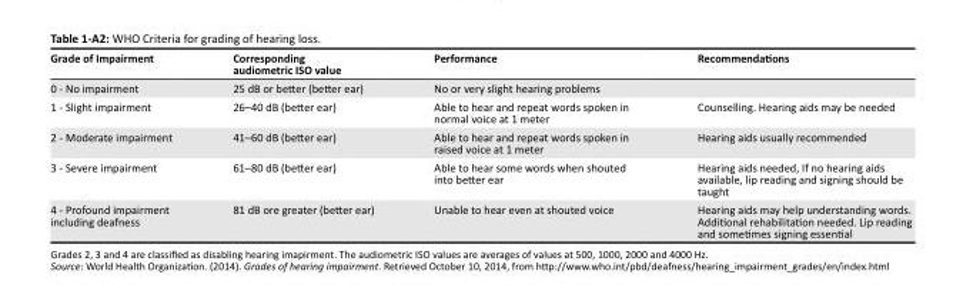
<table><thead><tr><td>Grade of Impairment</td><td>Corresponding audiometric ISO value</td><td>Performance</td><td>Recommendations</td></tr></thead><tbody><tr><td>0 - No impairment</td><td>25 dB or better (better ear)</td><td>No or very slight hearing problems</td><td></td></tr><tr><td>1 - Slight impairment</td><td>26–40 dB (better ear)</td><td>Able to hear and repeat words spoken in normal voice at 1 meter</td><td>Counselling. Hearing aids may be needed</td></tr><tr><td>2 - Moderate impairment</td><td>41–60 dB (better ear)</td><td>Able to hear and repeat words spoken in raised voice at 1 meter</td><td>Hearing aids usually recommended</td></tr><tr><td>3 - Severe impairment</td><td>61–80 dB (better ear)</td><td>Able to hear some words when shouted into better ear</td><td>Hearing aids needed, If no hearing aids available, lip reading and signing should be taught</td></tr><tr><td>4 - Profound impairment including deafness</td><td>81 dB ore greater (better ear)</td><td>Unable to hear even at shouted voice</td><td>Hearing aids may help understanding words. Additional rehabilitation needed. Lip reading and sometimes signing essential</td></tr></tbody></table>